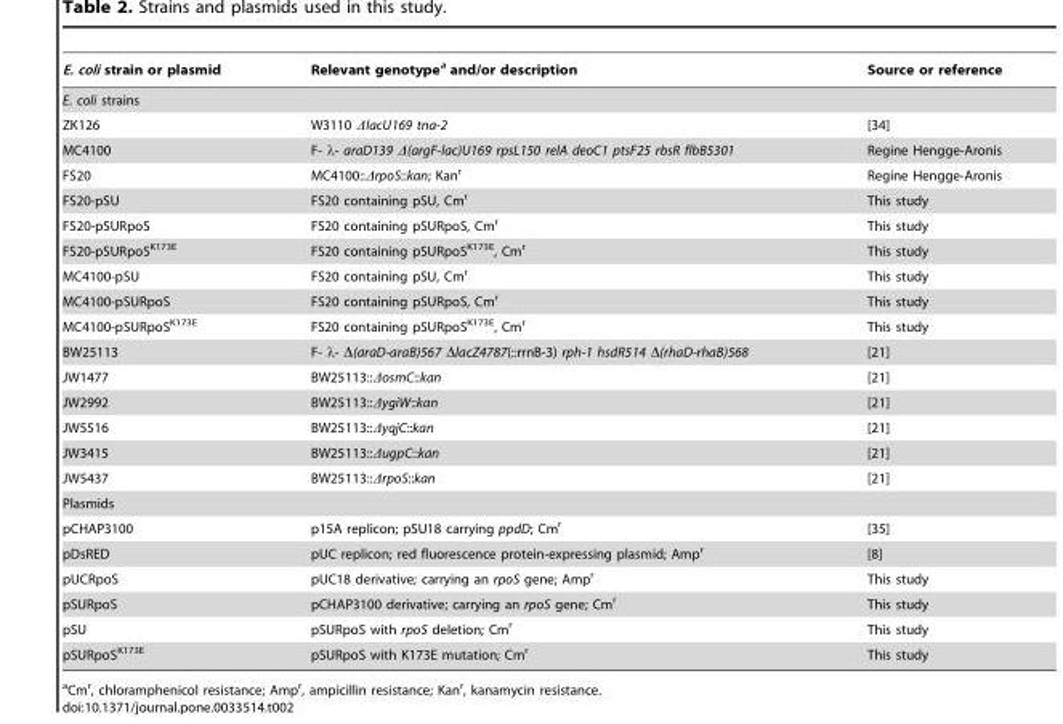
<table><thead><tr><td>E. coli strain or plasmid</td><td>Relevant genotype<sup>a</sup> and/or description</td><td>Source or reference</td></tr></thead><tbody><tr><td colspan="3">E. coli strains</td></tr><tr><td>ZK126</td><td>W3110 ΔlacU169 tna-2</td><td>[34]</td></tr><tr><td>MC4100</td><td>F- λ- araD139 Δ(argF-lac)U169 rpsL150 relA deoC1 ptsF25 rbsR flbB5301</td><td>Regine Hengge-Aronis</td></tr><tr><td>FS20</td><td>MC4100::ΔrpoS::kan; Kan<sup>r</sup></td><td>Regine Hengge-Aronis</td></tr><tr><td>FS20-pSU</td><td>FS20 containing pSU, Cm<sup>r</sup></td><td>This study</td></tr><tr><td>FS20-pSURpoS</td><td>FS20 containing pSURpoS, Cm<sup>r</sup></td><td>This study</td></tr><tr><td>FS20-pSURpoS<sup>K173E</sup></td><td>FS20 containing pSURpoS<sup>K173E</sup>, Cm<sup>r</sup></td><td>This study</td></tr><tr><td>MC4100-pSU</td><td>FS20 containing pSU, Cm<sup>r</sup></td><td>This study</td></tr><tr><td>MC4100-pSURpoS</td><td>FS20 containing pSURpoS, Cm<sup>r</sup></td><td>This study</td></tr><tr><td>MC4100-pSURpoS<sup>K173E</sup></td><td>FS20 containing pSURpoS<sup>K173E</sup>, Cm<sup>r</sup></td><td>This study</td></tr><tr><td>BW25113</td><td>F- λ- Δ(araD-araB)567 ΔlacZ4787(::rrnB-3) rph-1 hsdR514 Δ(rhaD-rhaB)568</td><td>[21]</td></tr><tr><td>JW1477</td><td>BW25113::ΔosmC::kan</td><td>[21]</td></tr><tr><td>JW2992</td><td>BW25113::ΔygiW::kan</td><td>[21]</td></tr><tr><td>JW5516</td><td>BW25113::ΔyqjC::kan</td><td>[21]</td></tr><tr><td>JW3415</td><td>BW25113::ΔugpC::kan</td><td>[21]</td></tr><tr><td>JW5437</td><td>BW25113::ΔrpoS::kan</td><td>[21]</td></tr><tr><td colspan="3">Plasmids</td></tr><tr><td>pCHAP3100</td><td>p15A replicon; pSU18 carrying ppdD; Cm<sup>r</sup></td><td>[35]</td></tr><tr><td>pDsRED</td><td>pUC replicon; red fluorescence protein-expressing plasmid; Amp<sup>r</sup></td><td>[8]</td></tr><tr><td>pUCRpoS</td><td>pUC18 derivative; carrying an rpoS gene; Amp<sup>r</sup></td><td>This study</td></tr><tr><td>pSURpoS</td><td>pCHAP3100 derivative; carrying an rpoS gene; Cm<sup>r</sup></td><td>This study</td></tr><tr><td>pSU</td><td>pSURpoS with rpoS deletion; Cm<sup>r</sup></td><td>This study</td></tr><tr><td>pSURpoS<sup>K173E</sup></td><td>pSURpoS with K173E mutation; Cm<sup>r</sup></td><td>This study</td></tr></tbody></table>